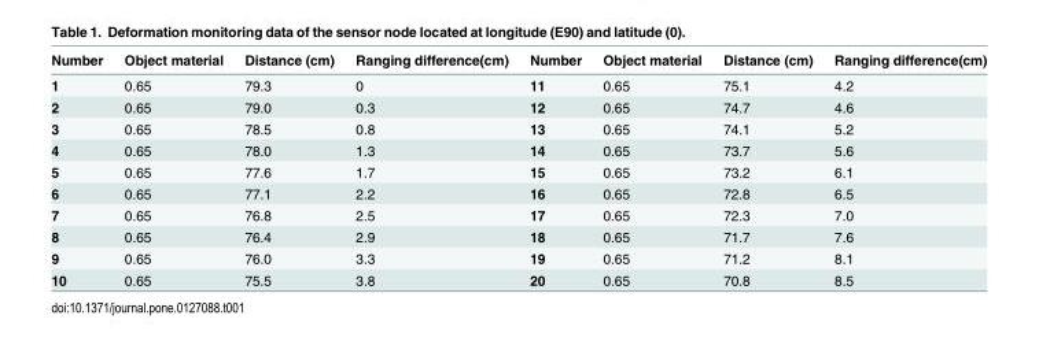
<table><thead><tr><td>Number</td><td>Object material</td><td>Distance (cm)</td><td>Ranging difference(cm)</td><td>Number</td><td>Object material</td><td>Distance (cm)</td><td>Ranging difference(cm)</td></tr></thead><tbody><tr><td>1</td><td>0.65</td><td>79.3</td><td>0</td><td>11</td><td>0.65</td><td>75.1</td><td>4.2</td></tr><tr><td>2</td><td>0.65</td><td>79.0</td><td>0.3</td><td>12</td><td>0.65</td><td>74.7</td><td>4.6</td></tr><tr><td>3</td><td>0.65</td><td>78.5</td><td>0.8</td><td>13</td><td>0.65</td><td>74.1</td><td>5.2</td></tr><tr><td>4</td><td>0.65</td><td>78.0</td><td>1.3</td><td>14</td><td>0.65</td><td>73.7</td><td>5.6</td></tr><tr><td>5</td><td>0.65</td><td>77.6</td><td>1.7</td><td>15</td><td>0.65</td><td>73.2</td><td>6.1</td></tr><tr><td>6</td><td>0.65</td><td>77.1</td><td>2.2</td><td>16</td><td>0.65</td><td>72.8</td><td>6.5</td></tr><tr><td>7</td><td>0.65</td><td>76.8</td><td>2.5</td><td>17</td><td>0.65</td><td>72.3</td><td>7.0</td></tr><tr><td>8</td><td>0.65</td><td>76.4</td><td>2.9</td><td>18</td><td>0.65</td><td>71.7</td><td>7.6</td></tr><tr><td>9</td><td>0.65</td><td>76.0</td><td>3.3</td><td>19</td><td>0.65</td><td>71.2</td><td>8.1</td></tr><tr><td>10</td><td>0.65</td><td>75.5</td><td>3.8</td><td>20</td><td>0.65</td><td>70.8</td><td>8.5</td></tr></tbody></table>